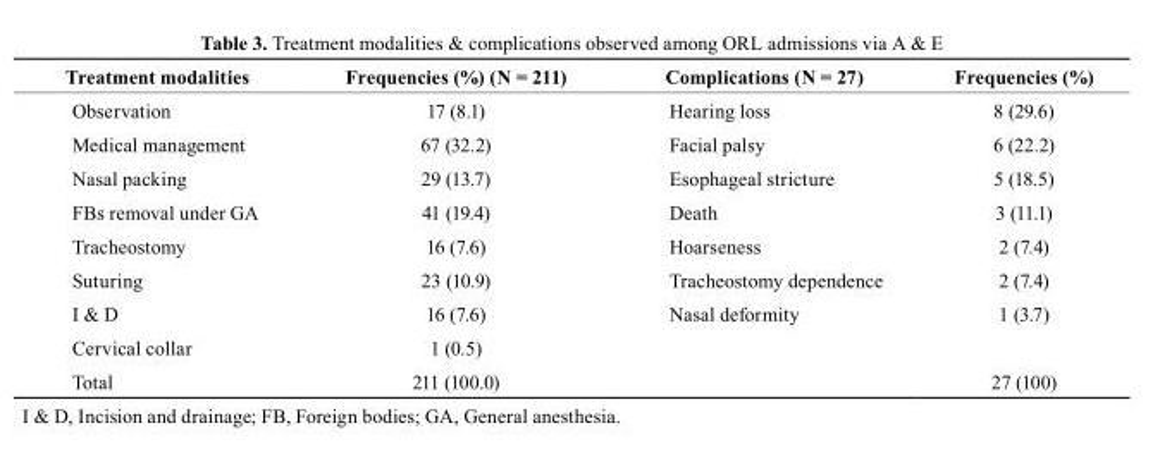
<table><thead><tr><td>treatment modalities</td><td>Frequencies (%) (N = 211)</td><td>Complications (N = 27)</td><td>Frequencies (%)</td></tr></thead><tbody><tr><td>Observation</td><td>17 (8.1)</td><td>Hearing loss</td><td>8 (29.6)</td></tr><tr><td>Medical management</td><td>67 (32.2)</td><td>Facial palsy</td><td>6 (22.2)</td></tr><tr><td>Nasal packing</td><td>29 (13.7)</td><td>Esophageal stricture</td><td>5 (18.5)</td></tr><tr><td>FBs removal under GA</td><td>41 (19.4)</td><td>Death</td><td>3 (11.1)</td></tr><tr><td>Tracheostomy</td><td>16 (7.6)</td><td>Hoarseness</td><td>2 (7.4)</td></tr><tr><td>Suturing</td><td>23 (10.9)</td><td>Tracheostomy dependence</td><td>2 (7.4)</td></tr><tr><td>I &amp; D</td><td>16 (7.6)</td><td>Nasal deformity</td><td>1 (3.7)</td></tr><tr><td>Cervical collar</td><td>1 (0.5)</td><td></td><td></td></tr><tr><td>Total</td><td>211 (100.0)</td><td></td><td>27 (100)</td></tr></tbody></table>